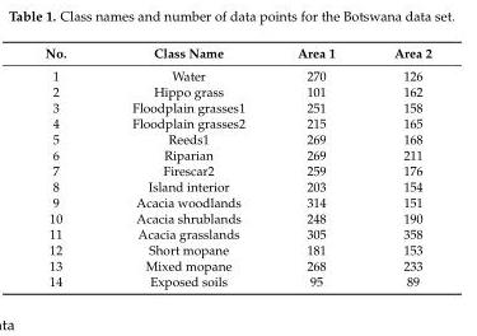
<table><thead><tr><td>No.</td><td>Class Name</td><td>Area 1</td><td>Area 2</td></tr></thead><tbody><tr><td>1</td><td>Water</td><td>270</td><td>126</td></tr><tr><td>2</td><td>Hippo grass</td><td>101</td><td>162</td></tr><tr><td>3</td><td>Floodplain grasses1</td><td>251</td><td>158</td></tr><tr><td>4</td><td>Floodplain grasses2</td><td>215</td><td>165</td></tr><tr><td>5</td><td>Reeds1</td><td>269</td><td>168</td></tr><tr><td>6</td><td>Riparian</td><td>269</td><td>211</td></tr><tr><td>7</td><td>Firescar2</td><td>259</td><td>176</td></tr><tr><td>8</td><td>Island interior</td><td>203</td><td>154</td></tr><tr><td>9</td><td>Acacia woodlands</td><td>314</td><td>151</td></tr><tr><td>10</td><td>Acacia shrublands</td><td>248</td><td>190</td></tr><tr><td>11</td><td>Acacia grasslands</td><td>305</td><td>358</td></tr><tr><td>12</td><td>Short mopane</td><td>181</td><td>153</td></tr><tr><td>13</td><td>Mixed mopane</td><td>268</td><td>233</td></tr><tr><td>14</td><td>Exposed soils</td><td>95</td><td>89</td></tr></tbody></table>